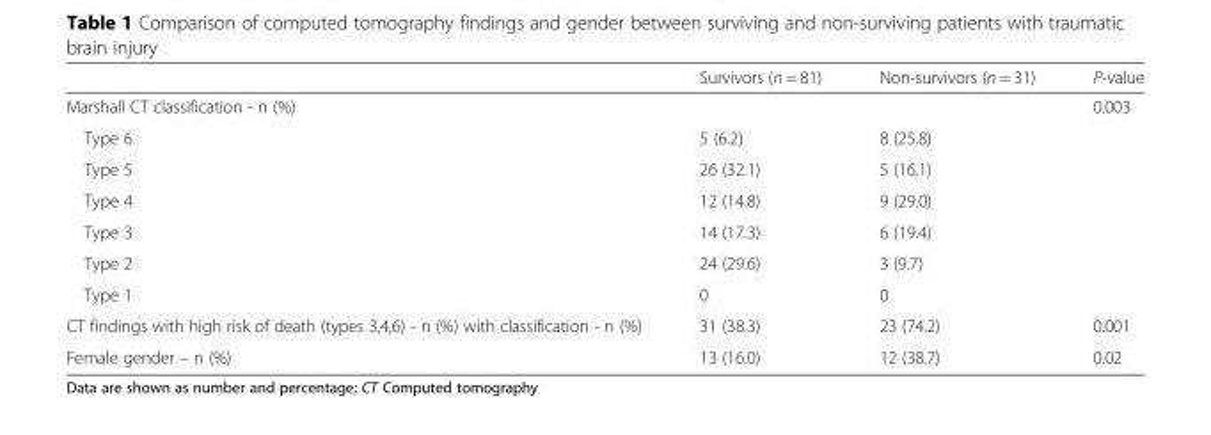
<table><thead><tr><td></td><td>Survivors (n = 81)</td><td>Non-survivors (n = 31)</td><td>P-value</td></tr></thead><tbody><tr><td>Marshall CT classification - n (%)</td><td></td><td></td><td>0.003</td></tr><tr><td>Type 6</td><td>5 (6.2)</td><td>8 (25.8)</td><td></td></tr><tr><td>Type 5</td><td>26 (32.1)</td><td>5 (16.1)</td><td></td></tr><tr><td>Type 4</td><td>12 (14.8)</td><td>9 (29.0)</td><td></td></tr><tr><td>Type 3</td><td>14 (17.3)</td><td>6 (19.4)</td><td></td></tr><tr><td>Type 2</td><td>24 (29.6)</td><td>3 (9.7)</td><td></td></tr><tr><td>Type 1</td><td>0</td><td>0</td><td></td></tr><tr><td>CT findings with high risk of death (types 3,4,6) - n (%) with classification - n (%)</td><td>31 (38.3)</td><td>23 (74.2)</td><td>0.001</td></tr><tr><td>Female gender – n (%)</td><td>13 (16.0)</td><td>12 (38.7)</td><td>0.02</td></tr></tbody></table>